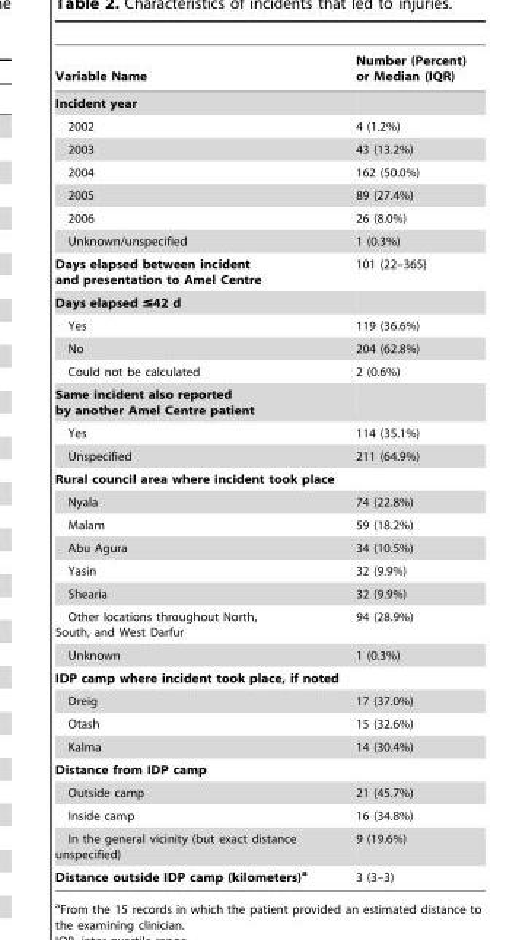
<table><thead><tr><td>Variable Name</td><td>Number (Percent) or Median (IQR)</td></tr></thead><tbody><tr><td colspan="2">Incident year</td></tr><tr><td>2002</td><td>4 (1.2%)</td></tr><tr><td>2003</td><td>43 (13.2%)</td></tr><tr><td>2004</td><td>162 (50.0%)</td></tr><tr><td>2005</td><td>89 (27.4%)</td></tr><tr><td>2006</td><td>26 (8.0%)</td></tr><tr><td>Unknown/unspecified</td><td>1 (0.3%)</td></tr><tr><td>Days elapsed between incident and presentation to Amel Centre</td><td>101 (22–365)</td></tr><tr><td colspan="2">Days elapsed ≤42 d</td></tr><tr><td>Yes</td><td>119 (36.6%)</td></tr><tr><td>No</td><td>204 (62.8%)</td></tr><tr><td>Could not be calculated</td><td>2 (0.6%)</td></tr><tr><td colspan="2">Same incident also reported by another Amel Centre patient</td></tr><tr><td>Yes</td><td>114 (35.1%)</td></tr><tr><td>Unspecified</td><td>211 (64.9%)</td></tr><tr><td colspan="2">Rural council area where incident took place</td></tr><tr><td>Nyala</td><td>74 (22.8%)</td></tr><tr><td>Malam</td><td>59 (18.2%)</td></tr><tr><td>Abu Agura</td><td>34 (10.5%)</td></tr><tr><td>Yasin</td><td>32 (9.9%)</td></tr><tr><td>Shearia</td><td>32 (9.9%)</td></tr><tr><td>Other locations throughout North, South, and West Darfur</td><td>94 (28.9%)</td></tr><tr><td>Unknown</td><td>1 (0.3%)</td></tr><tr><td colspan="2">IDP camp where incident took place, if noted</td></tr><tr><td>Dreig</td><td>17 (37.0%)</td></tr><tr><td>Otash</td><td>15 (32.6%)</td></tr><tr><td>Kalma</td><td>14 (30.4%)</td></tr><tr><td colspan="2">Distance from IDP camp</td></tr><tr><td>Outside camp</td><td>21 (45.7%)</td></tr><tr><td>Inside camp</td><td>16 (34.8%)</td></tr><tr><td>In the general vicinity (but exact distance unspecified)</td><td>9 (19.6%)</td></tr><tr><td>Distance outside IDP camp (kilometers)a</td><td>3 (3–3)</td></tr></tbody></table>